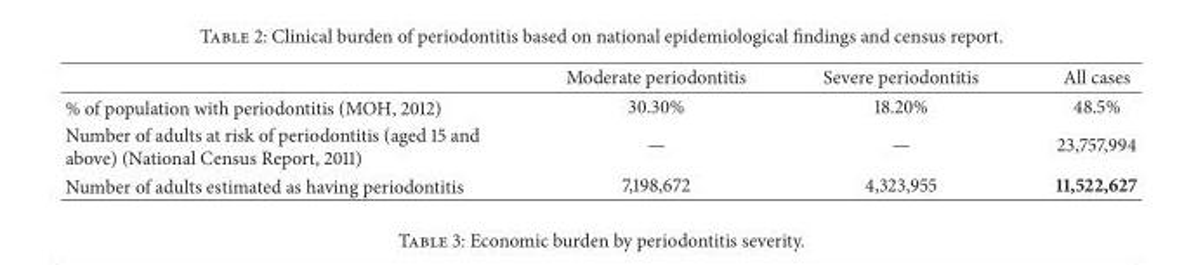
<table><thead><tr><td></td><td>Moderate periodontitis</td><td>Severe periodontitis</td><td>All cases</td></tr></thead><tbody><tr><td>% of population with periodontitis (MOH, 2012)</td><td>30.30%</td><td>18.20%</td><td>48.5%</td></tr><tr><td>Number of adults at risk of periodontitis (aged 15 and above) (National Census Report, 2011)</td><td>—</td><td>—</td><td>23,757,994</td></tr><tr><td>Number of adults estimated as having periodontitis</td><td>7,198,672</td><td>4,323,955</td><td>11,522,627</td></tr></tbody></table>